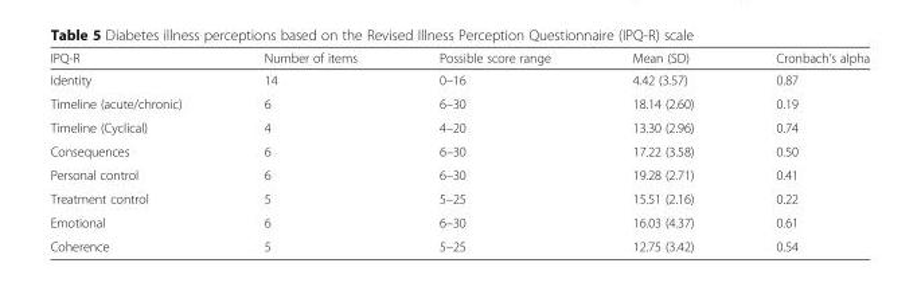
<table><thead><tr><td>IPQ-R</td><td>Number of items</td><td>Possible score range</td><td>Mean (SD)</td><td>Cronbach’s alpha</td></tr></thead><tbody><tr><td>Identity</td><td>14</td><td>0–16</td><td>4.42 (3.57)</td><td>0.87</td></tr><tr><td>Timeline (acute/chronic)</td><td>6</td><td>6–30</td><td>18.14 (2.60)</td><td>0.19</td></tr><tr><td>Timeline (Cyclical)</td><td>4</td><td>4–20</td><td>13.30 (2.96)</td><td>0.74</td></tr><tr><td>Consequences</td><td>6</td><td>6–30</td><td>17.22 (3.58)</td><td>0.50</td></tr><tr><td>Personal control</td><td>6</td><td>6–30</td><td>19.28 (2.71)</td><td>0.41</td></tr><tr><td>Treatment control</td><td>5</td><td>5–25</td><td>15.51 (2.16)</td><td>0.22</td></tr><tr><td>Emotional</td><td>6</td><td>6–30</td><td>16.03 (4.37)</td><td>0.61</td></tr><tr><td>Coherence</td><td>5</td><td>5–25</td><td>12.75 (3.42)</td><td>0.54</td></tr></tbody></table>